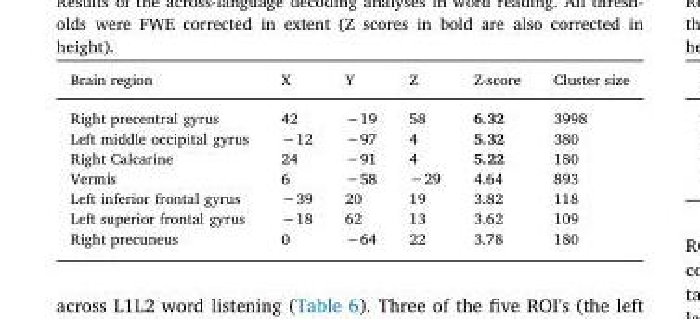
<table><thead><tr><td>Brain region</td><td>X</td><td>Y</td><td>Z</td><td>Z-score</td><td>Cluster size</td></tr></thead><tbody><tr><td>Right precentral gyrus</td><td>42</td><td>−19</td><td>58</td><td>6.32</td><td>3998</td></tr><tr><td>Left middle occipital gyrus</td><td>−12</td><td>−97</td><td>4</td><td>5.32</td><td>380</td></tr><tr><td>Right Calcarine</td><td>24</td><td>−91</td><td>4</td><td>5.22</td><td>180</td></tr><tr><td>Vermis</td><td>6</td><td>−58</td><td>−29</td><td>4.64</td><td>893</td></tr><tr><td>Left inferior frontal gyrus</td><td>−39</td><td>20</td><td>19</td><td>3.82</td><td>118</td></tr><tr><td>Left superior frontal gyrus</td><td>−18</td><td>62</td><td>13</td><td>3.62</td><td>109</td></tr><tr><td>Right precuneus</td><td>0</td><td>−64</td><td>22</td><td>3.78</td><td>180</td></tr></tbody></table>